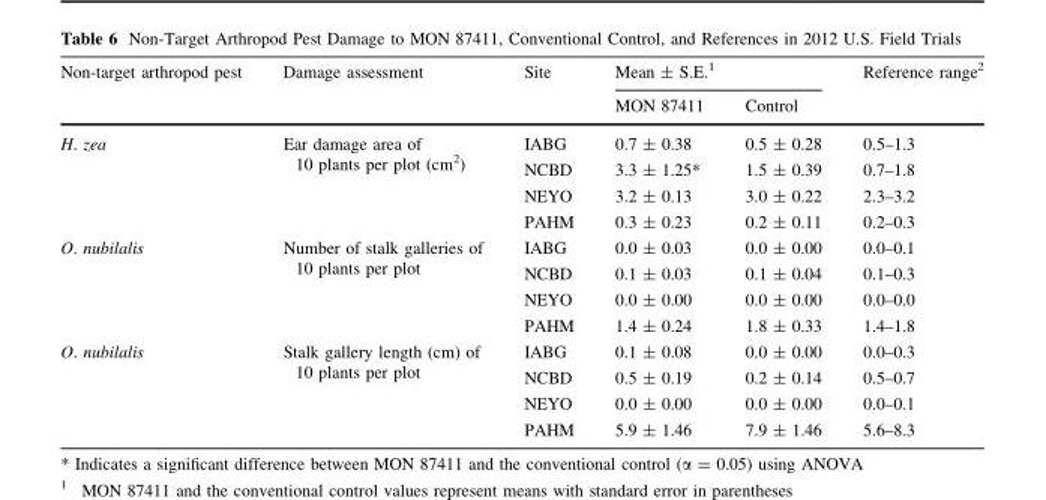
<table><thead><tr><td rowspan="2">Non-target arthropod pest</td><td rowspan="2">Damage assessment</td><td rowspan="2">Site</td><td colspan="2">Mean ± S.E.<sup>1</sup></td><td rowspan="2">Reference range<sup>2</sup></td></tr><tr><td>MON 87411</td><td>Control</td></tr></thead><tbody><tr><td rowspan="4">H. zea</td><td rowspan="4">Ear damage area of 10 plants per plot (cm<sup>2</sup>)</td><td>IABG</td><td>0.7 ± 0.38</td><td>0.5 ± 0.28</td><td>0.5–1.3</td></tr><tr><td>NCBD</td><td>3.3 ± 1.25*</td><td>1.5 ± 0.39</td><td>0.7–1.8</td></tr><tr><td>NEYO</td><td>3.2 ± 0.13</td><td>3.0 ± 0.22</td><td>2.3–3.2</td></tr><tr><td>PAHM</td><td>0.3 ± 0.23</td><td>0.2 ± 0.11</td><td>0.2–0.3</td></tr><tr><td rowspan="4">O. nubilalis</td><td rowspan="4">Number of stalk galleries of 10 plants per plot</td><td>IABG</td><td>0.0 ± 0.03</td><td>0.0 ± 0.00</td><td>0.0–0.1</td></tr><tr><td>NCBD</td><td>0.1 ± 0.03</td><td>0.1 ± 0.04</td><td>0.1–0.3</td></tr><tr><td>NEYO</td><td>0.0 ± 0.00</td><td>0.0 ± 0.00</td><td>0.0–0.0</td></tr><tr><td>PAHM</td><td>1.4 ± 0.24</td><td>1.8 ± 0.33</td><td>1.4–1.8</td></tr><tr><td rowspan="4">O. nubilalis</td><td rowspan="4">Stalk gallery length (cm) of 10 plants per plot</td><td>IABG</td><td>0.1 ± 0.08</td><td>0.0 ± 0.00</td><td>0.0–0.3</td></tr><tr><td>NCBD</td><td>0.5 ± 0.19</td><td>0.2 ± 0.14</td><td>0.5–0.7</td></tr><tr><td>NEYO</td><td>0.0 ± 0.00</td><td>0.0 ± 0.00</td><td>0.0–0.1</td></tr><tr><td>PAHM</td><td>5.9 ± 1.46</td><td>7.9 ± 1.46</td><td>5.6–8.3</td></tr></tbody></table>